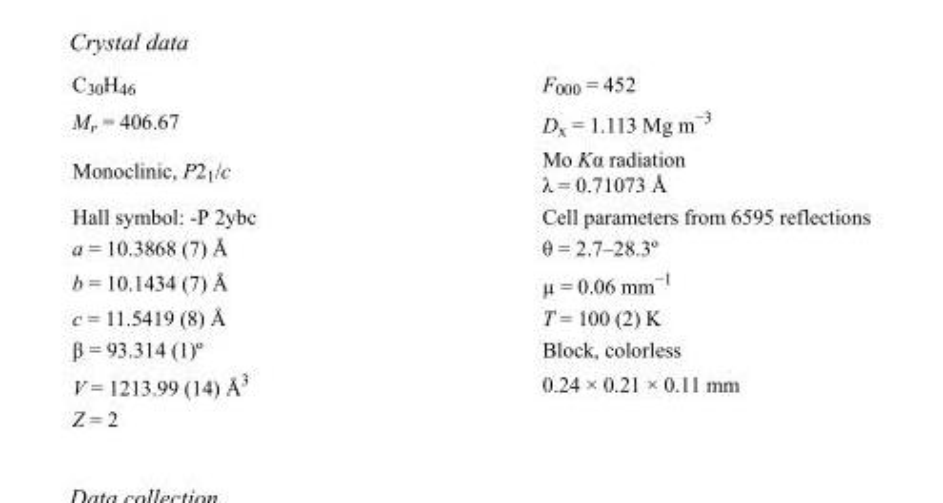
<table><tbody><tr><td>C<sub>30</sub>H<sub>46</sub></td><td>F<sub>000</sub> = 452</td></tr><tr><td>M<sub>r</sub> = 406.67</td><td>D<sub>x</sub> = 1.113 Mg m<sup>−3</sup></td></tr><tr><td>Monoclinic, P2<sub>1</sub>/c</td><td>Mo Kα radiation λ = 0.71073 Å</td></tr><tr><td>Hall symbol: -P 2ybc</td><td>Cell parameters from 6595 reflections</td></tr><tr><td>a = 10.3868 (7) Å</td><td>θ = 2.7–28.3º</td></tr><tr><td>b = 10.1434 (7) Å</td><td>µ = 0.06 mm<sup>−1</sup></td></tr><tr><td>c = 11.5419 (8) Å</td><td>T = 100 (2) K</td></tr><tr><td>β = 93.314 (1)º</td><td>Block, colorless</td></tr><tr><td>V = 1213.99 (14) Å<sup>3</sup></td><td>0.24 × 0.21 × 0.11 mm</td></tr><tr><td>Z = 2</td><td></td></tr></tbody></table>